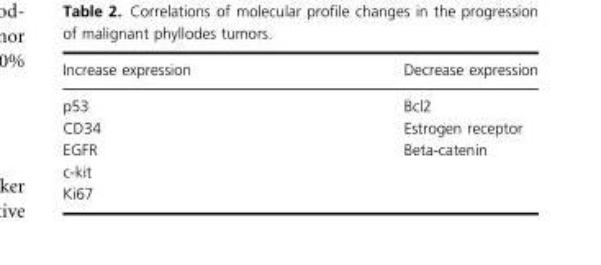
<table><thead><tr><td>Increase expression</td><td>Decrease expression</td></tr></thead><tbody><tr><td>p53</td><td>Bcl2</td></tr><tr><td>CD34</td><td>Estrogen receptor</td></tr><tr><td>EGFR</td><td>Beta-catenin</td></tr><tr><td colspan="2">c-kit</td></tr><tr><td>Ki67</td><td></td></tr></tbody></table>